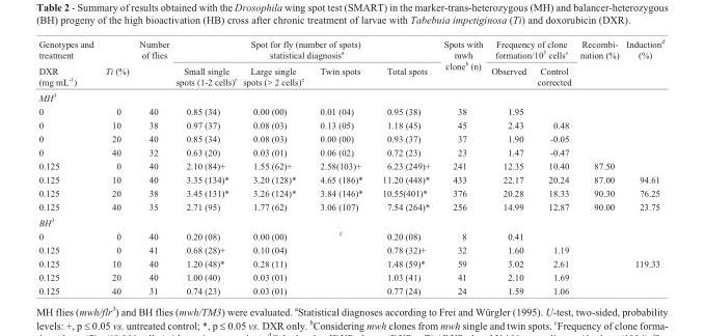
<table><thead><tr><td rowspan="2">Genotypes and treatment DXR (mg mL<sup>-1</sup>)</td><td rowspan="2">Ti (%)</td><td rowspan="2">Number of flies</td><td colspan="4">Spot for fly (number of spots) statistical diagnosis<sup>a</sup></td><td rowspan="2">Spots with mwh clone<sup>b</sup> (n)</td><td colspan="2">Frequency of clone formation/10<sup>5</sup> cells<sup>c</sup></td><td rowspan="2">Recombi- nation (%)</td><td rowspan="2">Induction<sup>d</sup> (%)</td></tr><tr><td>Small single spots (1-2 cells)<sup>e</sup></td><td>Large single spots (&gt; 2 cells)<sup>e</sup></td><td>Twin spots</td><td>Total spots</td><td>Observed</td><td>Control corrected</td></tr></thead><tbody><tr><td colspan="12">MH<sup>3</sup></td></tr><tr><td>0</td><td>0</td><td>40</td><td>0.85 (34)</td><td>0.00 (00)</td><td>0.01 (04)</td><td>0.95 (38)</td><td>38</td><td>1.95</td><td></td><td></td><td></td></tr><tr><td>0</td><td>10</td><td>38</td><td>0.97 (37)</td><td>0.08 (03)</td><td>0.13 (05)</td><td>1.18 (45)</td><td>45</td><td>2.43</td><td>0.48</td><td></td><td></td></tr><tr><td>0</td><td>20</td><td>40</td><td>0.85 (34)</td><td>0.08 (03)</td><td>0.00 (00)</td><td>0.93 (37)</td><td>37</td><td>1.90</td><td>-0.05</td><td></td><td></td></tr><tr><td>0</td><td>40</td><td>32</td><td>0.63 (20)</td><td>0.03 (01)</td><td>0.06 (02)</td><td>0.72 (23)</td><td>23</td><td>1.47</td><td>-0.47</td><td></td><td></td></tr><tr><td>0.125</td><td>0</td><td>40</td><td>2.10 (84)+</td><td>1.55 (62)+</td><td>2.58(103)+</td><td>6.23 (249)+</td><td>241</td><td>12.35</td><td>10.40</td><td>87.50</td><td></td></tr><tr><td>0.125</td><td>10</td><td>40</td><td>3.35 (134)*</td><td>3.20 (128)*</td><td>4.65 (186)*</td><td>11.20 (448)*</td><td>433</td><td>22.17</td><td>20.24</td><td>87.00</td><td>94.61</td></tr><tr><td>0.125</td><td>20</td><td>38</td><td>3.45 (131)*</td><td>3.26 (124)*</td><td>3.84 (146)*</td><td>10.55(401)*</td><td>376</td><td>20.28</td><td>18.33</td><td>90.30</td><td>76.25</td></tr><tr><td>0.125</td><td>40</td><td>35</td><td>2.71 (95)</td><td>1.77 (62)</td><td>3.06 (107)</td><td>7.54 (264)*</td><td>256</td><td>14.99</td><td>12.87</td><td>90.00</td><td>23.75</td></tr><tr><td colspan="12">BH<sup>3</sup></td></tr><tr><td>0</td><td>0</td><td>40</td><td>0.20 (08)</td><td>0.00 (00)</td><td><sup>f</sup></td><td>0.20 (08)</td><td>8</td><td>0.41</td><td></td><td></td><td></td></tr><tr><td>0.125</td><td>0</td><td>41</td><td>0.68 (28)+</td><td>0.10 (04)</td><td></td><td>0.78 (32)+</td><td>32</td><td>1.60</td><td>1.19</td><td></td><td></td></tr><tr><td>0.125</td><td>10</td><td>40</td><td>1.20 (48)*</td><td>0.28 (11)</td><td></td><td>1.48 (59)*</td><td>59</td><td>3.02</td><td>2.61</td><td></td><td>119.33</td></tr><tr><td>0.125</td><td>20</td><td>40</td><td>1.00 (40)</td><td>0.03 (01)</td><td></td><td>1.03 (41)</td><td>41</td><td>2.10</td><td>1.69</td><td></td><td></td></tr><tr><td>0.125</td><td>40</td><td>31</td><td>0.74 (23)</td><td>0.03 (01)</td><td></td><td>0.77 (24)</td><td>24</td><td>1.59</td><td>1.06</td><td></td><td></td></tr></tbody></table>